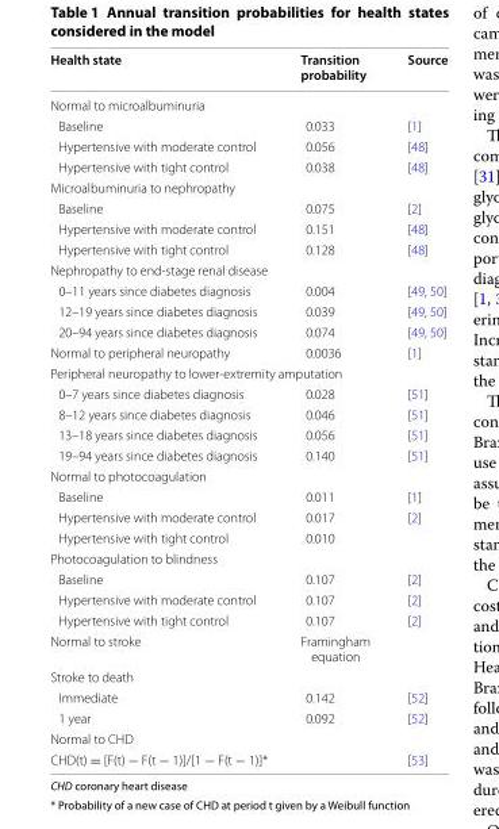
<table><thead><tr><td>Health state</td><td>Transition probability</td><td>Source</td></tr></thead><tbody><tr><td colspan="3">Normal to microalbuminuria</td></tr><tr><td>Baseline</td><td>0.033</td><td>[1]</td></tr><tr><td>Hypertensive with moderate control</td><td>0.056</td><td>[48]</td></tr><tr><td>Hypertensive with tight control</td><td>0.038</td><td>[48]</td></tr><tr><td colspan="3">Microalbuminuria to nephropathy</td></tr><tr><td>Baseline</td><td>0.075</td><td>[2]</td></tr><tr><td>Hypertensive with moderate control</td><td>0.151</td><td>[48]</td></tr><tr><td>Hypertensive with tight control</td><td>0.128</td><td>[48]</td></tr><tr><td colspan="3">Nephropathy to end-stage renal disease</td></tr><tr><td>0–11 years since diabetes diagnosis</td><td>0.004</td><td>[49, 50]</td></tr><tr><td>12–19 years since diabetes diagnosis</td><td>0.039</td><td>[49, 50]</td></tr><tr><td>20–94 years since diabetes diagnosis</td><td>0.074</td><td>[49, 50]</td></tr><tr><td>Normal to peripheral neuropathy</td><td>0.0036</td><td>[1]</td></tr><tr><td colspan="3">Peripheral neuropathy to lower-extremity amputation</td></tr><tr><td>0–7 years since diabetes diagnosis</td><td>0.028</td><td>[51]</td></tr><tr><td>8–12 years since diabetes diagnosis</td><td>0.046</td><td>[51]</td></tr><tr><td>13–18 years since diabetes diagnosis</td><td>0.056</td><td>[51]</td></tr><tr><td>19–94 years since diabetes diagnosis</td><td>0.140</td><td>[51]</td></tr><tr><td colspan="3">Normal to photocoagulation</td></tr><tr><td>Baseline</td><td>0.011</td><td>[1]</td></tr><tr><td>Hypertensive with moderate control</td><td>0.017</td><td>[2]</td></tr><tr><td>Hypertensive with tight control</td><td>0.010</td><td></td></tr><tr><td colspan="3">Photocoagulation to blindness</td></tr><tr><td>Baseline</td><td>0.107</td><td>[2]</td></tr><tr><td>Hypertensive with moderate control</td><td>0.107</td><td>[2]</td></tr><tr><td>Hypertensive with tight control</td><td>0.107</td><td>[2]</td></tr><tr><td>Normal to stroke</td><td>Framingham equation</td><td></td></tr><tr><td colspan="3">Stroke to death</td></tr><tr><td>Immediate</td><td>0.142</td><td>[52]</td></tr><tr><td>1 year</td><td>0.092</td><td>[52]</td></tr><tr><td colspan="3">Normal to CHD</td></tr><tr><td>CHD(t) = [F(t) − F(t − 1)]/[1 − F(t − 1)]*</td><td></td><td>[53]</td></tr></tbody></table>